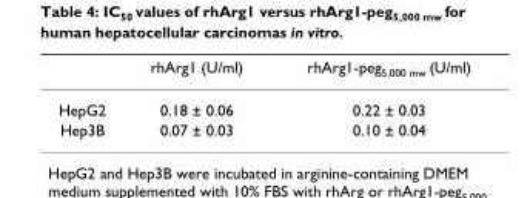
<table><thead><tr><td></td><td>rhArg1 (U/ml)</td><td>rhArg1-peg<sub>5,000 mw</sub> (U/ml)</td></tr></thead><tbody><tr><td>HepG2</td><td>0.18 ± 0.06</td><td>0.22 ± 0.03</td></tr><tr><td>Hep3B</td><td>0.07 ± 0.03</td><td>0.10 ± 0.04</td></tr></tbody></table>